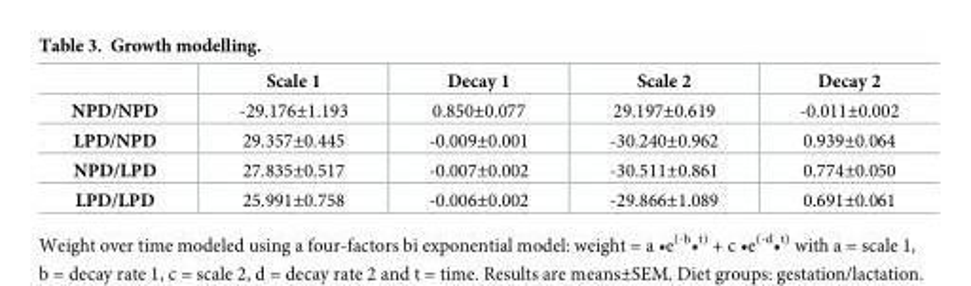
<table><thead><tr><td></td><td>Scale 1</td><td>Decay 1</td><td>Scale 2</td><td>Decay 2</td></tr></thead><tbody><tr><td>NPD/NPD</td><td>-29.176±1.193</td><td>0.850±0.077</td><td>29.197±0.619</td><td>-0.011±0.002</td></tr><tr><td>LPD/NPD</td><td>29.357±0.445</td><td>-0.009±0.001</td><td>-30.240±0.962</td><td>0.939±0.064</td></tr><tr><td>NPD/LPD</td><td>27.835±0.517</td><td>-0.007±0.002</td><td>-30.511±0.861</td><td>0.774±0.050</td></tr><tr><td>LPD/LPD</td><td>25.991±0.758</td><td>-0.006±0.002</td><td>-29.866±1.089</td><td>0.691±0.061</td></tr></tbody></table>